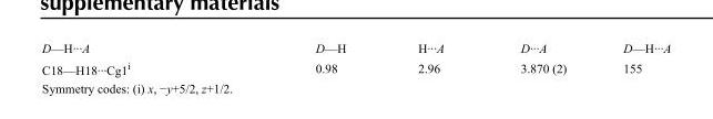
<table><tbody><tr><td>D—H···A</td><td>D—H</td><td>H···A</td><td>D···A</td><td>D—H···A</td></tr><tr><td>C18—H18···Cg1<sup>i</sup></td><td>0.98</td><td>2.96</td><td>3.870 (2)</td><td>155</td></tr></tbody></table>